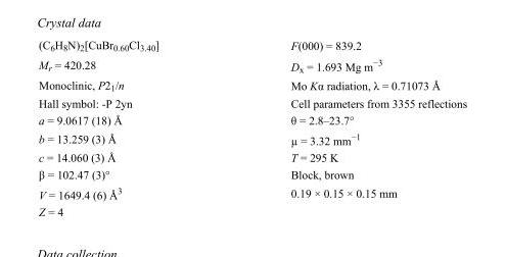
<table><tbody><tr><td>(C<sub>6</sub>H<sub>8</sub>N)<sub>2</sub>[CuBr<sub>0.60</sub>Cl<sub>3.40</sub>]</td><td>F(000) = 839.2</td></tr><tr><td>M<sub>r</sub> = 420.28</td><td>D<sub>x</sub> = 1.693 Mg m<sup>−3</sup></td></tr><tr><td>Monoclinic, P2<sub>1</sub>/n</td><td>Mo Kα radiation, λ = 0.71073 Å</td></tr><tr><td>Hall symbol: -P 2yn</td><td>Cell parameters from 3355 reflections</td></tr><tr><td>a = 9.0617 (18) Å</td><td>θ = 2.8–23.7°</td></tr><tr><td>b = 13.259 (3) Å</td><td>µ = 3.32 mm<sup>−1</sup></td></tr><tr><td>c = 14.060 (3) Å</td><td>T = 295 K</td></tr><tr><td>β = 102.47 (3)°</td><td>Block, brown</td></tr><tr><td>V = 1649.4 (6) Å<sup>3</sup></td><td>0.19 × 0.15 × 0.15 mm</td></tr><tr><td>Z = 4</td><td></td></tr></tbody></table>